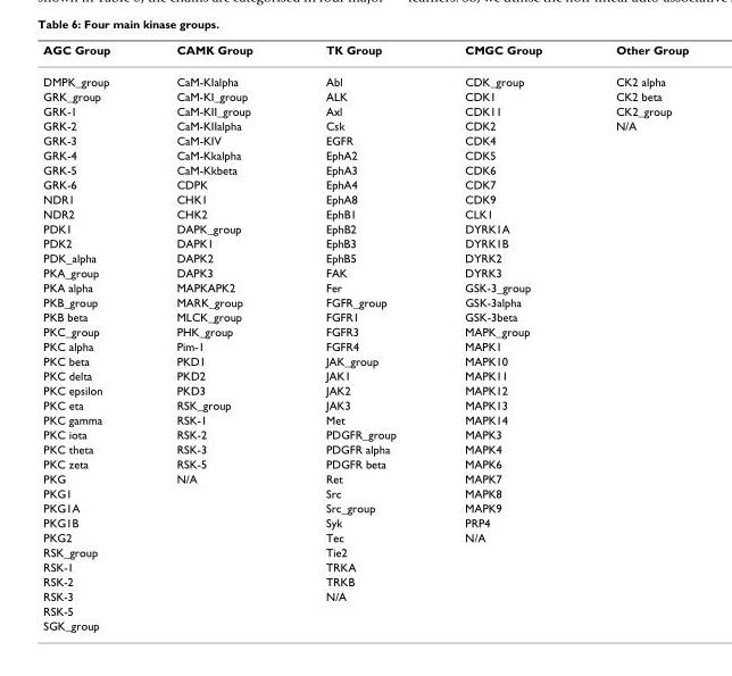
<table><thead><tr><td>AGC Group</td><td>CAMK Group</td><td>TK Group</td><td>CMGC Group</td><td>Other Group</td></tr></thead><tbody><tr><td>DMPK_group</td><td>CaM-KIalpha</td><td>Abl</td><td>CDK_group</td><td>CK2 alpha</td></tr><tr><td>GRK_group</td><td>CaM-KI_group</td><td>ALK</td><td>CDK1</td><td>CK2 beta</td></tr><tr><td>GRK-1</td><td>CaM-KII_group</td><td>Axl</td><td>CDK11</td><td>CK2_group</td></tr><tr><td>GRK-2</td><td>CaM-KIIalpha</td><td>Csk</td><td>CDK2</td><td>N/A</td></tr><tr><td>GRK-3</td><td>CaM-KIV</td><td>EGFR</td><td>CDK4</td><td></td></tr><tr><td>GRK-4</td><td>CaM-Kkalpha</td><td>EphA2</td><td>CDK5</td><td></td></tr><tr><td>GRK-5</td><td>CaM-Kkbeta</td><td>EphA3</td><td>CDK6</td><td></td></tr><tr><td>GRK-6</td><td>CDPK</td><td>EphA4</td><td>CDK7</td><td></td></tr><tr><td>NDR1</td><td>CHK1</td><td>EphA8</td><td>CDK9</td><td></td></tr><tr><td>NDR2</td><td>CHK2</td><td>EphB1</td><td>CLK1</td><td></td></tr><tr><td>PDK1</td><td>DAPK_group</td><td>EphB2</td><td>DYRK1A</td><td></td></tr><tr><td>PDK2</td><td>DAPK1</td><td>EphB3</td><td>DYRK1B</td><td></td></tr><tr><td>PDK_alpha</td><td>DAPK2</td><td>EphB5</td><td>DYRK2</td><td></td></tr><tr><td>PKA_group</td><td>DAPK3</td><td>FAK</td><td>DYRK3</td><td></td></tr><tr><td>PKA alpha</td><td>MAPKAPK2</td><td>Fer</td><td>GSK-3_group</td><td></td></tr><tr><td>PKB_group</td><td>MARK_group</td><td>FGFR_group</td><td>GSK-3alpha</td><td></td></tr><tr><td>PKB beta</td><td>MLCK_group</td><td>FGFR1</td><td>GSK-3beta</td><td></td></tr><tr><td>PKC_group</td><td>PHK_group</td><td>FGFR3</td><td>MAPK_group</td><td></td></tr><tr><td>PKC alpha</td><td>Pim-1</td><td>FGFR4</td><td>MAPK1</td><td></td></tr><tr><td>PKC beta</td><td>PKD1</td><td>JAK_group</td><td>MAPK10</td><td></td></tr><tr><td>PKC delta</td><td>PKD2</td><td>JAK1</td><td>MAPK11</td><td></td></tr><tr><td>PKC epsilon</td><td>PKD3</td><td>JAK2</td><td>MAPK12</td><td></td></tr><tr><td>PKC eta</td><td>RSK_group</td><td>JAK3</td><td>MAPK13</td><td></td></tr><tr><td>PKC gamma</td><td>RSK-1</td><td>Met</td><td>MAPK14</td><td></td></tr><tr><td>PKC iota</td><td>RSK-2</td><td>PDGFR_group</td><td>MAPK3</td><td></td></tr><tr><td>PKC theta</td><td>RSK-3</td><td>PDGFR alpha</td><td>MAPK4</td><td></td></tr><tr><td>PKC zeta</td><td>RSK-5</td><td>PDGFR beta</td><td>MAPK6</td><td></td></tr><tr><td>PKG</td><td>N/A</td><td>Ret</td><td>MAPK7</td><td></td></tr><tr><td>PKG1</td><td></td><td>Src</td><td>MAPK8</td><td></td></tr><tr><td>PKG1A</td><td></td><td>Src_group</td><td>MAPK9</td><td></td></tr><tr><td>PKG1B</td><td></td><td>Syk</td><td>PRP4</td><td></td></tr><tr><td>PKG2</td><td></td><td>Tec</td><td>N/A</td><td></td></tr><tr><td>RSK_group</td><td></td><td>Tie2</td><td></td><td></td></tr><tr><td>RSK-1</td><td></td><td>TRKA</td><td></td><td></td></tr><tr><td>RSK-2</td><td></td><td>TRKB</td><td></td><td></td></tr><tr><td>RSK-3</td><td></td><td>N/A</td><td></td><td></td></tr><tr><td colspan="5">RSK-5</td></tr><tr><td>SGK_group</td><td></td><td></td><td></td><td></td></tr></tbody></table>